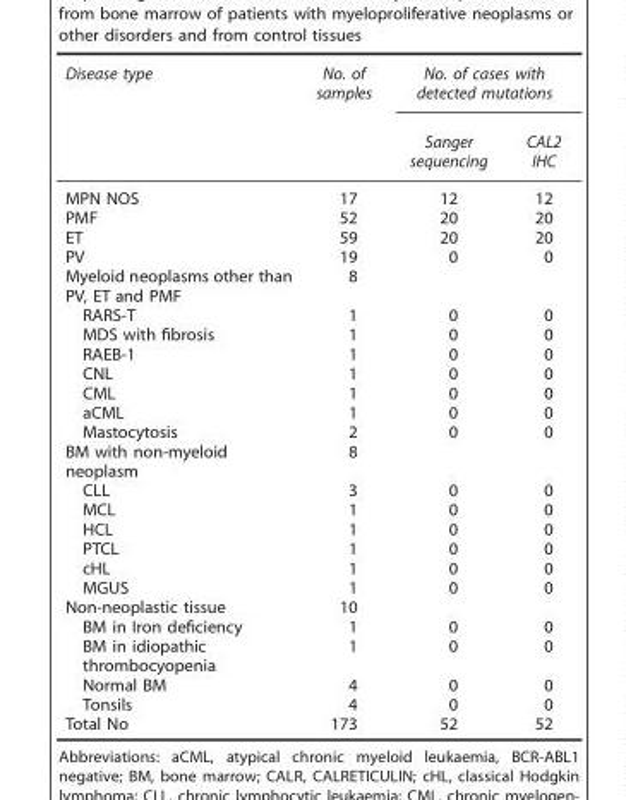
<table><thead><tr><td rowspan="2">Disease type</td><td rowspan="2">No. of samples</td><td colspan="2">No. of cases with detected mutations</td></tr><tr><td>Sanger sequencing</td><td>CAL2 IHC</td></tr></thead><tbody><tr><td>MPN NOS</td><td>17</td><td>12</td><td>12</td></tr><tr><td>PMF</td><td>52</td><td>20</td><td>20</td></tr><tr><td>ET</td><td>59</td><td>20</td><td>20</td></tr><tr><td>PV</td><td>19</td><td>0</td><td>0</td></tr><tr><td>Myeloid neoplasms other than PV, ET and PMF</td><td>8</td><td></td><td></td></tr><tr><td>RARS-T</td><td>1</td><td>0</td><td>0</td></tr><tr><td>MDS with fibrosis</td><td>1</td><td>0</td><td>0</td></tr><tr><td>RAEB-1</td><td>1</td><td>0</td><td>0</td></tr><tr><td>CNL</td><td>1</td><td>0</td><td>0</td></tr><tr><td>CML</td><td>1</td><td>0</td><td>0</td></tr><tr><td>aCML</td><td>1</td><td>0</td><td>0</td></tr><tr><td>Mastocytosis</td><td>2</td><td>0</td><td>0</td></tr><tr><td>BM with non-myeloid neoplasm</td><td>8</td><td></td><td></td></tr><tr><td>CLL</td><td>3</td><td>0</td><td>0</td></tr><tr><td>MCL</td><td>1</td><td>0</td><td>0</td></tr><tr><td>HCL</td><td>1</td><td>0</td><td>0</td></tr><tr><td>PTCL</td><td>1</td><td>0</td><td>0</td></tr><tr><td>cHL</td><td>1</td><td>0</td><td>0</td></tr><tr><td>MGUS</td><td>1</td><td>0</td><td>0</td></tr><tr><td>Non-neoplastic tissue</td><td>10</td><td></td><td></td></tr><tr><td>BM in Iron deficiency</td><td>1</td><td>0</td><td>0</td></tr><tr><td>BM in idiopathic thrombocyopenia</td><td>1</td><td>0</td><td>0</td></tr><tr><td>Normal BM</td><td>4</td><td>0</td><td>0</td></tr><tr><td>Tonsils</td><td>4</td><td>0</td><td>0</td></tr><tr><td>Total No</td><td>173</td><td>52</td><td>52</td></tr></tbody></table>